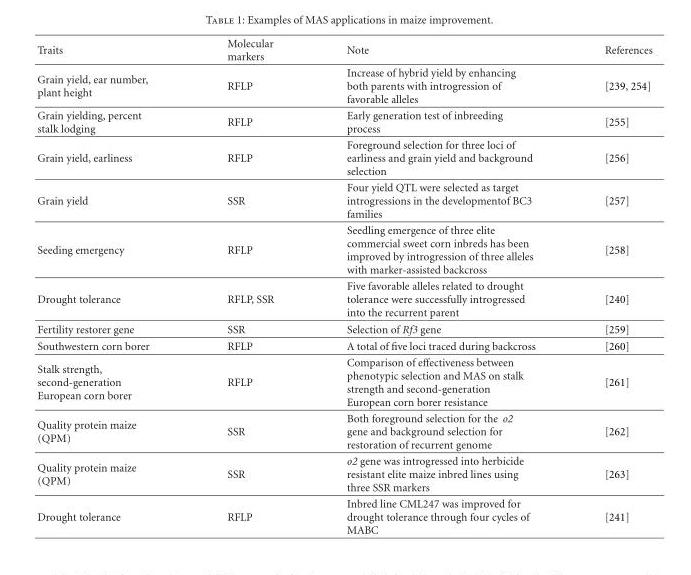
<table><thead><tr><td>Traits</td><td>Molecular markers</td><td>Note</td><td>References</td></tr></thead><tbody><tr><td>Grain yield, ear number, plant height</td><td>RFLP</td><td>Increase of hybrid yield by enhancing both parents with introgression of favorable alleles</td><td>[239, 254]</td></tr><tr><td>Grain yielding, percent stalk lodging</td><td>RFLP</td><td>Early generation test of inbreeding process</td><td>[255]</td></tr><tr><td>Grain yield, earliness</td><td>RFLP</td><td>Foreground selection for three loci of earliness and grain yield and background selection</td><td>[256]</td></tr><tr><td>Grain yield</td><td>SSR</td><td>Four yield QTL were selected as target introgressions in the developmentof BC3 families</td><td>[257]</td></tr><tr><td>Seeding emergency</td><td>RFLP</td><td>Seedling emergence of three elite commercial sweet corn inbreds has been improved by introgression of three alleles with marker-assisted backcross</td><td>[258]</td></tr><tr><td>Drought tolerance</td><td>RFLP, SSR</td><td>Five favorable alleles related to drought tolerance were successfully introgressed into the recurrent parent</td><td>[240]</td></tr><tr><td>Fertility restorer gene</td><td>SSR</td><td>Selection of Rf3 gene</td><td>[259]</td></tr><tr><td>Southwestern corn borer</td><td>RFLP</td><td>A total of five loci traced during backcross</td><td>[260]</td></tr><tr><td>Stalk strength, second-generation European corn borer</td><td>RFLP</td><td>Comparison of effectiveness between phenotypic selection and MAS on stalk strength and second-generation European corn borer resistance</td><td>[261]</td></tr><tr><td>Quality protein maize (QPM)</td><td>SSR</td><td>Both foreground selection for the o2 gene and background selection for restoration of recurrent genome</td><td>[262]</td></tr><tr><td>Quality protein maize (QPM)</td><td>SSR</td><td>o2 gene was introgressed into herbicide resistant elite maize inbred lines using three SSR markers</td><td>[263]</td></tr><tr><td>Drought tolerance</td><td>RFLP</td><td>Inbred line CML247 was improved for drought tolerance through four cycles of MABC</td><td>[241]</td></tr></tbody></table>